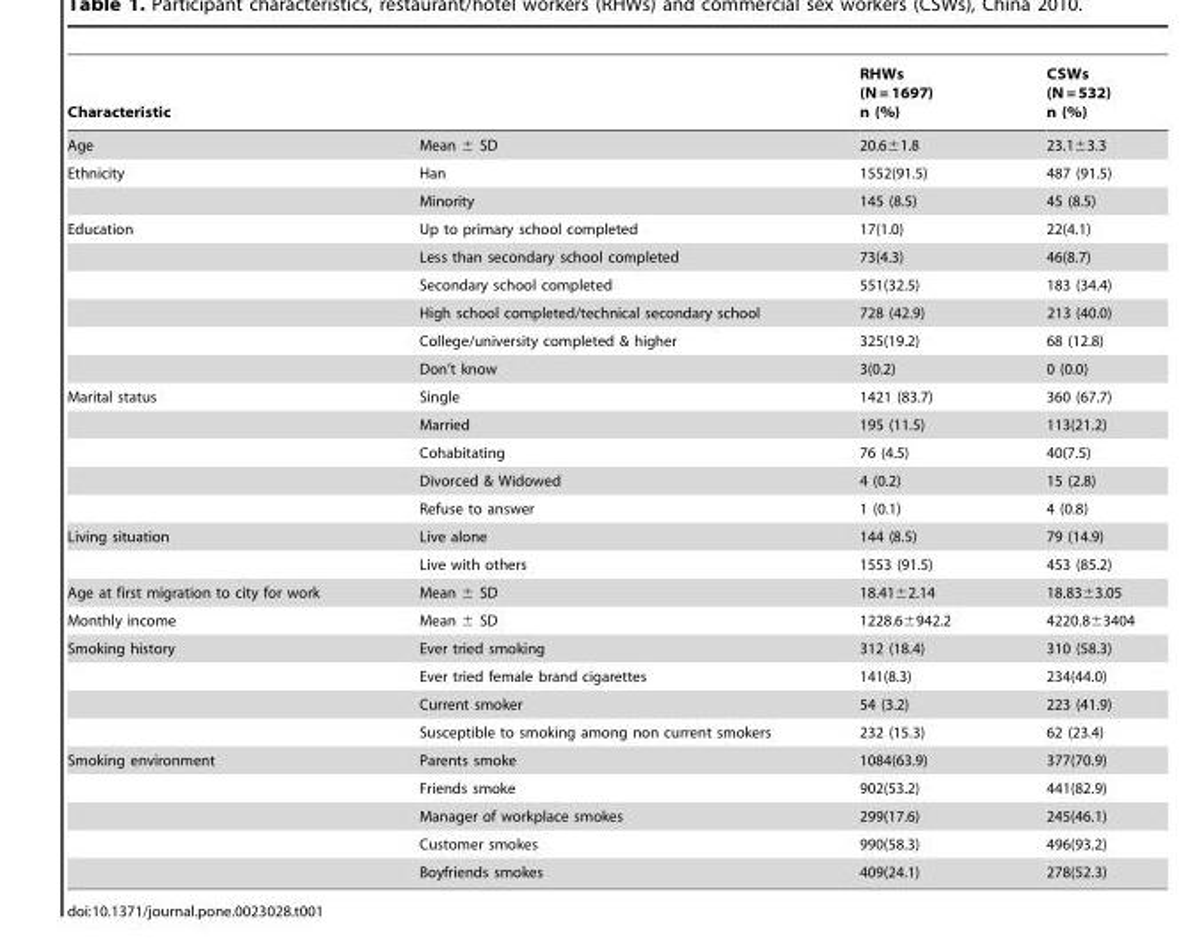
<table><thead><tr><td colspan="2">Characteristic</td><td rowspan="2">RHWs (N = 1697) n (%) 20.6±1.8</td><td rowspan="2">CSWs (N = 532) n (%) 23.1±3.3</td></tr><tr><td>Age</td><td>Mean ± SD</td></tr></thead><tbody><tr><td rowspan="2">Ethnicity</td><td>Han</td><td>1552(91.5)</td><td>487 (91.5)</td></tr><tr><td>Minority</td><td>145 (8.5)</td><td>45 (8.5)</td></tr><tr><td rowspan="6">Education</td><td>Up to primary school completed</td><td>17(1.0)</td><td>22(4.1)</td></tr><tr><td>Less than secondary school completed</td><td>73(4.3)</td><td>46(8.7)</td></tr><tr><td>Secondary school completed</td><td>551(32.5)</td><td>183 (34.4)</td></tr><tr><td>High school completed/technical secondary school</td><td>728 (42.9)</td><td>213 (40.0)</td></tr><tr><td>College/university completed &amp; higher</td><td>325(19.2)</td><td>68 (12.8)</td></tr><tr><td>Don’t know</td><td>3(0.2)</td><td>0 (0.0)</td></tr><tr><td rowspan="5">Marital status</td><td>Single</td><td>1421 (83.7)</td><td>360 (67.7)</td></tr><tr><td>Married</td><td>195 (11.5)</td><td>113(21.2)</td></tr><tr><td>Cohabitating</td><td>76 (4.5)</td><td>40(7.5)</td></tr><tr><td>Divorced &amp; Widowed</td><td>4 (0.2)</td><td>15 (2.8)</td></tr><tr><td>Refuse to answer</td><td>1 (0.1)</td><td>4 (0.8)</td></tr><tr><td rowspan="2">Living situation</td><td>Live alone</td><td>144 (8.5)</td><td>79 (14.9)</td></tr><tr><td>Live with others</td><td>1553 (91.5)</td><td>453 (85.2)</td></tr><tr><td>Age at first migration to city for work</td><td>Mean ± SD</td><td>18.41±2.14</td><td>18.83±3.05</td></tr><tr><td>Monthly income</td><td>Mean ± SD</td><td>1228.6±942.2</td><td>4220.8±3404</td></tr><tr><td rowspan="4">Smoking history</td><td>Ever tried smoking</td><td>312 (18.4)</td><td>310 (58.3)</td></tr><tr><td>Ever tried female brand cigarettes</td><td>141(8.3)</td><td>234(44.0)</td></tr><tr><td>Current smoker</td><td>54 (3.2)</td><td>223 (41.9)</td></tr><tr><td>Susceptible to smoking among non current smokers</td><td>232 (15.3)</td><td>62 (23.4)</td></tr><tr><td rowspan="5">Smoking environment</td><td>Parents smoke</td><td>1084(63.9)</td><td>377(70.9)</td></tr><tr><td>Friends smoke</td><td>902(53.2)</td><td>441(82.9)</td></tr><tr><td>Manager of workplace smokes</td><td>299(17.6)</td><td>245(46.1)</td></tr><tr><td>Customer smokes</td><td>990(58.3)</td><td>496(93.2)</td></tr><tr><td>Boyfriends smokes</td><td>409(24.1)</td><td>278(52.3)</td></tr></tbody></table>